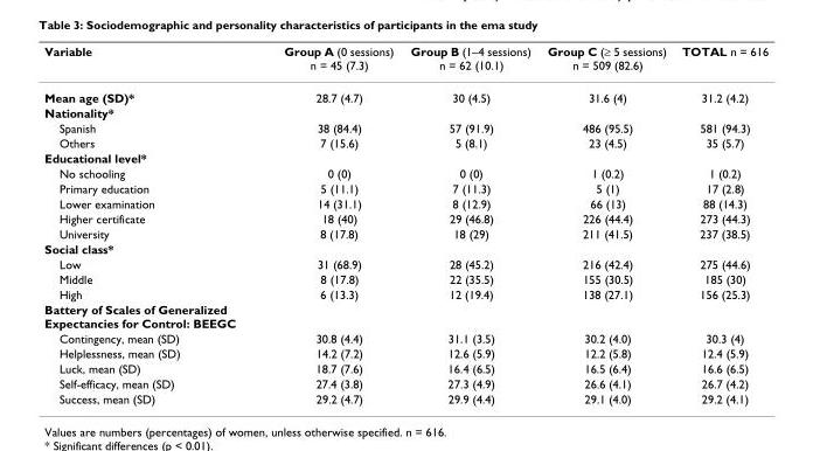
<table><thead><tr><td>Variable</td><td>Group A (0 sessions) n = 45 (7.3)</td><td>Group B (1–4 sessions) n = 62 (10.1)</td><td>Group C (≥ 5 sessions) n = 509 (82.6)</td><td>TOTAL n = 616</td></tr></thead><tbody><tr><td>Mean age (SD)*</td><td>28.7 (4.7)</td><td>30 (4.5)</td><td>31.6 (4)</td><td>31.2 (4.2)</td></tr><tr><td colspan="5">Nationality*</td></tr><tr><td>Spanish</td><td>38 (84.4)</td><td>57 (91.9)</td><td>486 (95.5)</td><td>581 (94.3)</td></tr><tr><td>Others</td><td>7 (15.6)</td><td>5 (8.1)</td><td>23 (4.5)</td><td>35 (5.7)</td></tr><tr><td colspan="5">Educational level*</td></tr><tr><td>No schooling</td><td>0 (0)</td><td>0 (0)</td><td>1 (0.2)</td><td>1 (0.2)</td></tr><tr><td>Primary education</td><td>5 (11.1)</td><td>7 (11.3)</td><td>5 (1)</td><td>17 (2.8)</td></tr><tr><td>Lower examination</td><td>14 (31.1)</td><td>8 (12.9)</td><td>66 (13)</td><td>88 (14.3)</td></tr><tr><td>Higher certificate</td><td>18 (40)</td><td>29 (46.8)</td><td>226 (44.4)</td><td>273 (44.3)</td></tr><tr><td>University</td><td>8 (17.8)</td><td>18 (29)</td><td>211 (41.5)</td><td>237 (38.5)</td></tr><tr><td colspan="5">Social class*</td></tr><tr><td>Low</td><td>31 (68.9)</td><td>28 (45.2)</td><td>216 (42.4)</td><td>275 (44.6)</td></tr><tr><td>Middle</td><td>8 (17.8)</td><td>22 (35.5)</td><td>155 (30.5)</td><td>185 (30)</td></tr><tr><td>High</td><td>6 (13.3)</td><td>12 (19.4)</td><td>138 (27.1)</td><td>156 (25.3)</td></tr><tr><td colspan="5">Battery of Scales of Generalized Expectancies for Control: BEEGC</td></tr><tr><td>Contingency, mean (SD)</td><td>30.8 (4.4)</td><td>31.1 (3.5)</td><td>30.2 (4.0)</td><td>30.3 (4)</td></tr><tr><td>Helplessness, mean (SD)</td><td>14.2 (7.2)</td><td>12.6 (5.9)</td><td>12.2 (5.8)</td><td>12.4 (5.9)</td></tr><tr><td>Luck, mean (SD)</td><td>18.7 (7.6)</td><td>16.4 (6.5)</td><td>16.5 (6.4)</td><td>16.6 (6.5)</td></tr><tr><td>Self-efficacy, mean (SD)</td><td>27.4 (3.8)</td><td>27.3 (4.9)</td><td>26.6 (4.1)</td><td>26.7 (4.2)</td></tr><tr><td>Success, mean (SD)</td><td>29.2 (4.7)</td><td>29.9 (4.4)</td><td>29.1 (4.0)</td><td>29.2 (4.1)</td></tr></tbody></table>